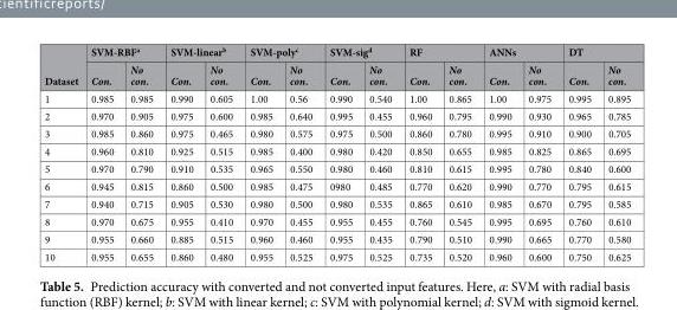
<table><thead><tr><td rowspan="2">Dataset</td><td colspan="2">SVM-RBF<sup>a</sup></td><td colspan="2">SVM-linear<sup>b</sup></td><td colspan="2">SVM-poly<sup>c</sup></td><td colspan="2">SVM-sig<sup>d</sup></td><td colspan="2">RF</td><td colspan="2">ANNs</td><td colspan="2">DT</td></tr><tr><td>Con.</td><td>No con.</td><td>Con.</td><td>No con.</td><td>Con.</td><td>No con.</td><td>Con.</td><td>No con.</td><td>Con.</td><td>No con.</td><td>Con.</td><td>No con.</td><td>Con.</td><td>No con.</td></tr></thead><tbody><tr><td>1</td><td>0.985</td><td>0.985</td><td>0.990</td><td>0.605</td><td>1.00</td><td>0.56</td><td>0.990</td><td>0.540</td><td>1.00</td><td>0.865</td><td>1.00</td><td>0.975</td><td>0.995</td><td>0.895</td></tr><tr><td>2</td><td>0.970</td><td>0.905</td><td>0.975</td><td>0.600</td><td>0.985</td><td>0.640</td><td>0.995</td><td>0.455</td><td>0.960</td><td>0.795</td><td>0.990</td><td>0.930</td><td>0.965</td><td>0.785</td></tr><tr><td>3</td><td>0.985</td><td>0.860</td><td>0.975</td><td>0.465</td><td>0.980</td><td>0.575</td><td>0.975</td><td>0.500</td><td>0.860</td><td>0.780</td><td>0.995</td><td>0.910</td><td>0.900</td><td>0.705</td></tr><tr><td>4</td><td>0.960</td><td>0.810</td><td>0.925</td><td>0.515</td><td>0.985</td><td>0.400</td><td>0.980</td><td>0.420</td><td>0.850</td><td>0.655</td><td>0.985</td><td>0.825</td><td>0.865</td><td>0.695</td></tr><tr><td>5</td><td>0.970</td><td>0.790</td><td>0.910</td><td>0.535</td><td>0.965</td><td>0.550</td><td>0.980</td><td>0.460</td><td>0.810</td><td>0.615</td><td>0.995</td><td>0.780</td><td>0.840</td><td>0.600</td></tr><tr><td>6</td><td>0.945</td><td>0.815</td><td>0.860</td><td>0.500</td><td>0.985</td><td>0.475</td><td>0980</td><td>0.485</td><td>0.770</td><td>0.620</td><td>0.990</td><td>0.770</td><td>0.795</td><td>0.615</td></tr><tr><td>7</td><td>0.940</td><td>0.715</td><td>0.905</td><td>0.530</td><td>0.980</td><td>0.500</td><td>0.980</td><td>0.535</td><td>0.865</td><td>0.610</td><td>0.985</td><td>0.670</td><td>0.795</td><td>0.585</td></tr><tr><td>8</td><td>0.970</td><td>0.675</td><td>0.955</td><td>0.410</td><td>0.970</td><td>0.455</td><td>0.955</td><td>0.455</td><td>0.760</td><td>0.545</td><td>0.995</td><td>0.695</td><td>0.760</td><td>0.610</td></tr><tr><td>9</td><td>0.955</td><td>0.660</td><td>0.885</td><td>0.515</td><td>0.960</td><td>0.460</td><td>0.955</td><td>0.435</td><td>0.790</td><td>0.510</td><td>0.990</td><td>0.665</td><td>0.770</td><td>0.580</td></tr><tr><td>10</td><td>0.955</td><td>0.655</td><td>0.860</td><td>0.480</td><td>0.955</td><td>0.525</td><td>0.975</td><td>0.525</td><td>0.735</td><td>0.520</td><td>0.960</td><td>0.600</td><td>0.750</td><td>0.625</td></tr></tbody></table>